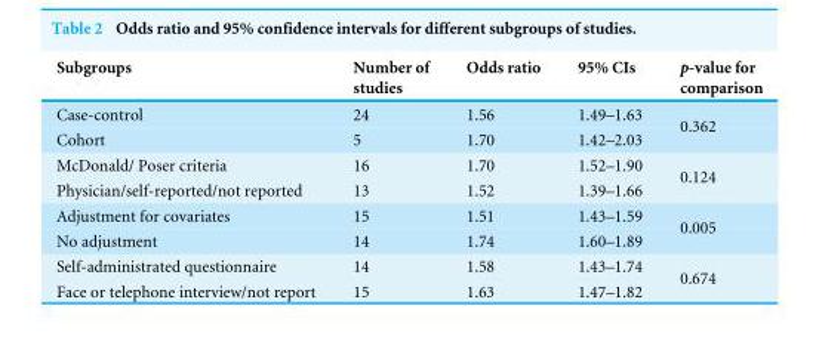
<table><thead><tr><td>Subgroups</td><td>Number of studies</td><td>Odds ratio</td><td>95% CIs</td><td>p-value for comparison</td></tr></thead><tbody><tr><td>Case-control</td><td>24</td><td>1.56</td><td>1.49–1.63</td><td rowspan="2">0.362</td></tr><tr><td>Cohort</td><td>5</td><td>1.70</td><td>1.42–2.03</td></tr><tr><td>McDonald/ Poser criteria</td><td>16</td><td>1.70</td><td>1.52–1.90</td><td rowspan="2">0.124</td></tr><tr><td>Physician/self-reported/not reported</td><td>13</td><td>1.52</td><td>1.39–1.66</td></tr><tr><td>Adjustment for covariates</td><td>15</td><td>1.51</td><td>1.43–1.59</td><td rowspan="2">0.005</td></tr><tr><td>No adjustment</td><td>14</td><td>1.74</td><td>1.60–1.89</td></tr><tr><td>Self-administrated questionnaire</td><td>14</td><td>1.58</td><td>1.43–1.74</td><td rowspan="2">0.674</td></tr><tr><td>Face or telephone interview/not report</td><td>15</td><td>1.63</td><td>1.47–1.82</td></tr></tbody></table>